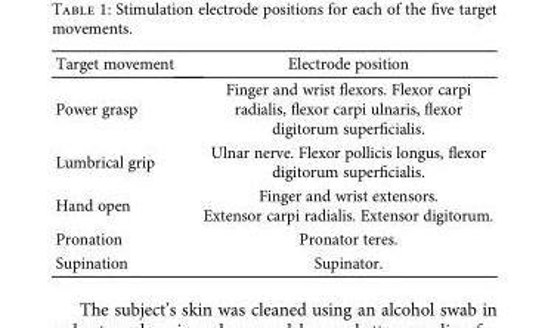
<table><thead><tr><td>Target movement</td><td>Electrode position</td></tr></thead><tbody><tr><td>Power grasp</td><td>Finger and wrist flexors. Flexor carpi radialis, flexor carpi ulnaris, flexor digitorum superficialis.</td></tr><tr><td>Lumbrical grip</td><td>Ulnar nerve. Flexor pollicis longus, flexor digitorum superficialis.</td></tr><tr><td>Hand open</td><td>Finger and wrist extensors. Extensor carpi radialis. Extensor digitorum.</td></tr><tr><td>Pronation</td><td>Pronator teres.</td></tr><tr><td>Supination</td><td>Supinator.</td></tr></tbody></table>